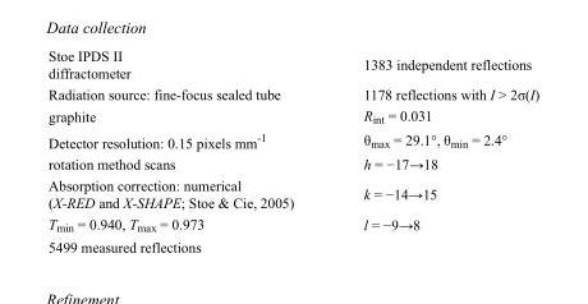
<table><tbody><tr><td>Stoe IPDS II diffractometer</td><td>1383 independent reflections</td></tr><tr><td>Radiation source: fine-focus sealed tube</td><td>1178 reflections with I &gt; 2σ(I)</td></tr><tr><td>graphite</td><td>R<sub>int</sub> = 0.031</td></tr><tr><td>Detector resolution: 0.15 pixels mm<sup>-1</sup></td><td>θ<sub>max</sub> = 29.1°, θ<sub>min</sub> = 2.4°</td></tr><tr><td>rotation method scans</td><td>h = −17→18</td></tr><tr><td>Absorption correction: numerical (X-RED and X-SHAPE; Stoe &amp; Cie, 2005)</td><td>k = −14→15</td></tr><tr><td>T<sub>min</sub> = 0.940, T<sub>max</sub> = 0.973</td><td>l = −9→8</td></tr><tr><td>5499 measured reflections</td><td></td></tr></tbody></table>